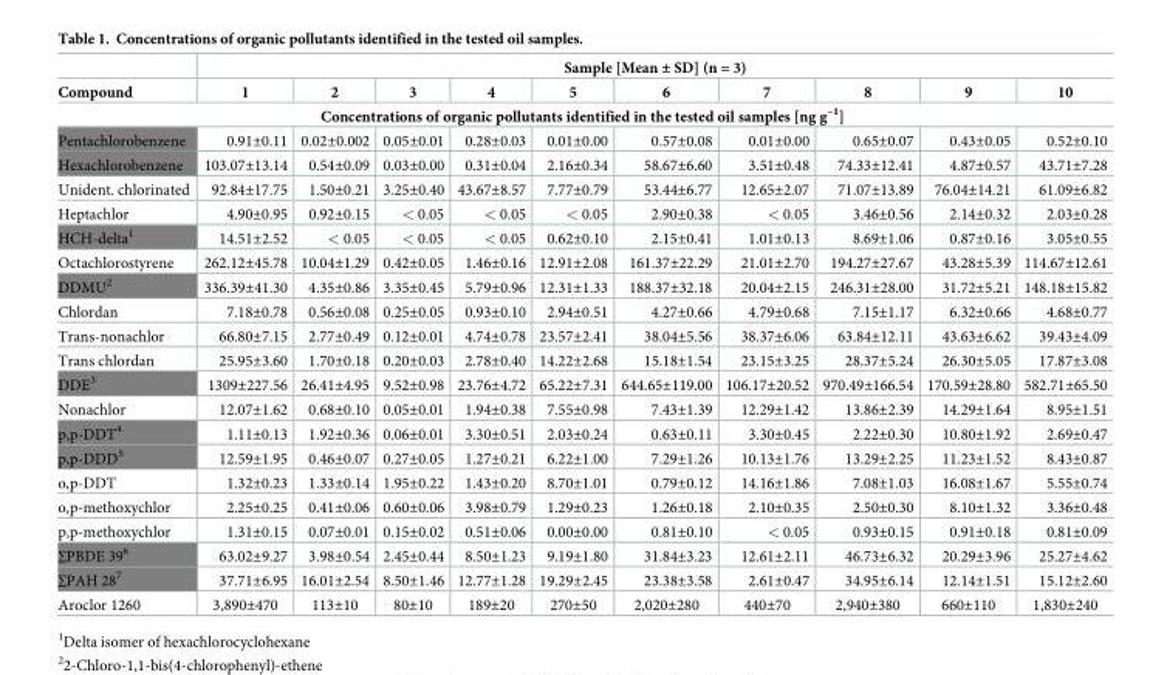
<table><thead><tr><td rowspan="2">Compound</td><td colspan="10">Sample [Mean ± SD] (n = 3)</td></tr><tr><td>1</td><td>2</td><td>3</td><td>4</td><td>5</td><td>6</td><td>7</td><td>8</td><td>9</td><td>10</td></tr><tr><td colspan="11">Concentrations of organic pollutants identified in the tested oil samples [ng g<sup>–1</sup>]</td></tr></thead><tbody><tr><td>Pentachlorobenzene</td><td>0.91±0.11</td><td>0.02±0.002</td><td>0.05±0.01</td><td>0.28±0.03</td><td>0.01±0.00</td><td>0.57±0.08</td><td>0.01±0.00</td><td>0.65±0.07</td><td>0.43±0.05</td><td>0.52±0.10</td></tr><tr><td>Hexachlorobenzene</td><td>103.07±13.14</td><td>0.54±0.09</td><td>0.03±0.00</td><td>0.31±0.04</td><td>2.16±0.34</td><td>58.67±6.60</td><td>3.51±0.48</td><td>74.33±12.41</td><td>4.87±0.57</td><td>43.71±7.28</td></tr><tr><td>Unident. chlorinated</td><td>92.84±17.75</td><td>1.50±0.21</td><td>3.25±0.40</td><td>43.67±8.57</td><td>7.77±0.79</td><td>53.44±6.77</td><td>12.65±2.07</td><td>71.07±13.89</td><td>76.04±14.21</td><td>61.09±6.82</td></tr><tr><td>Heptachlor</td><td>4.90±0.95</td><td>0.92±0.15</td><td>&lt; 0.05</td><td>&lt; 0.05</td><td>&lt; 0.05</td><td>2.90±0.38</td><td>&lt; 0.05</td><td>3.46±0.56</td><td>2.14±0.32</td><td>2.03±0.28</td></tr><tr><td>HCH-delta<sup>1</sup></td><td>14.51±2.52</td><td>&lt; 0.05</td><td>&lt; 0.05</td><td>&lt; 0.05</td><td>0.62±0.10</td><td>2.15±0.41</td><td>1.01±0.13</td><td>8.69±1.06</td><td>0.87±0.16</td><td>3.05±0.55</td></tr><tr><td>Octachlorostyrene</td><td>262.12±45.78</td><td>10.04±1.29</td><td>0.42±0.05</td><td>1.46±0.16</td><td>12.91±2.08</td><td>161.37±22.29</td><td>21.01±2.70</td><td>194.27±27.67</td><td>43.28±5.39</td><td>114.67±12.61</td></tr><tr><td>DDMU<sup>2</sup></td><td>336.39±41.30</td><td>4.35±0.86</td><td>3.35±0.45</td><td>5.79±0.96</td><td>12.31±1.33</td><td>188.37±32.18</td><td>20.04±2.15</td><td>246.31±28.00</td><td>31.72±5.21</td><td>148.18±15.82</td></tr><tr><td>Chlordan</td><td>7.18±0.78</td><td>0.56±0.08</td><td>0.25±0.05</td><td>0.93±0.10</td><td>2.94±0.51</td><td>4.27±0.66</td><td>4.79±0.68</td><td>7.15±1.17</td><td>6.32±0.66</td><td>4.68±0.77</td></tr><tr><td>Trans-nonachlor</td><td>66.80±7.15</td><td>2.77±0.49</td><td>0.12±0.01</td><td>4.74±0.78</td><td>23.57±2.41</td><td>38.04±5.56</td><td>38.37±6.06</td><td>63.84±12.11</td><td>43.63±6.62</td><td>39.43±4.09</td></tr><tr><td>Trans chlordan</td><td>25.95±3.60</td><td>1.70±0.18</td><td>0.20±0.03</td><td>2.78±0.40</td><td>14.22±2.68</td><td>15.18±1.54</td><td>23.15±3.25</td><td>28.37±5.24</td><td>26.30±5.05</td><td>17.87±3.08</td></tr><tr><td>DDE<sup>3</sup></td><td>1309±227.56</td><td>26.41±4.95</td><td>9.52±0.98</td><td>23.76±4.72</td><td>65.22±7.31</td><td>644.65±119.00</td><td>106.17±20.52</td><td>970.49±166.54</td><td>170.59±28.80</td><td>582.71±65.50</td></tr><tr><td>Nonachlor</td><td>12.07±1.62</td><td>0.68±0.10</td><td>0.05±0.01</td><td>1.94±0.38</td><td>7.55±0.98</td><td>7.43±1.39</td><td>12.29±1.42</td><td>13.86±2.39</td><td>14.29±1.64</td><td>8.95±1.51</td></tr><tr><td>p,p-DDT<sup>4</sup></td><td>1.11±0.13</td><td>1.92±0.36</td><td>0.06±0.01</td><td>3.30±0.51</td><td>2.03±0.24</td><td>0.63±0.11</td><td>3.30±0.45</td><td>2.22±0.30</td><td>10.80±1.92</td><td>2.69±0.47</td></tr><tr><td>p,p-DDD<sup>5</sup></td><td>12.59±1.95</td><td>0.46±0.07</td><td>0.27±0.05</td><td>1.27±0.21</td><td>6.22±1.00</td><td>7.29±1.26</td><td>10.13±1.76</td><td>13.29±2.25</td><td>11.23±1.52</td><td>8.43±0.87</td></tr><tr><td>o,p-DDT</td><td>1.32±0.23</td><td>1.33±0.14</td><td>1.95±0.22</td><td>1.43±0.20</td><td>8.70±1.01</td><td>0.79±0.12</td><td>14.16±1.86</td><td>7.08±1.03</td><td>16.08±1.67</td><td>5.55±0.74</td></tr><tr><td>o,p-methoxychlor</td><td>2.25±0.25</td><td>0.41±0.06</td><td>0.60±0.06</td><td>3.98±0.79</td><td>1.29±0.23</td><td>1.26±0.18</td><td>2.10±0.35</td><td>2.50±0.30</td><td>8.10±1.32</td><td>3.36±0.48</td></tr><tr><td>p,p-methoxychlor</td><td>1.31±0.15</td><td>0.07±0.01</td><td>0.15±0.02</td><td>0.51±0.06</td><td>0.00±0.00</td><td>0.81±0.10</td><td>&lt; 0.05</td><td>0.93±0.15</td><td>0.91±0.18</td><td>0.81±0.09</td></tr><tr><td>∑PBDE 39<sup>6</sup></td><td>63.02±9.27</td><td>3.98±0.54</td><td>2.45±0.44</td><td>8.50±1.23</td><td>9.19±1.80</td><td>31.84±3.23</td><td>12.61±2.11</td><td>46.73±6.32</td><td>20.29±3.96</td><td>25.27±4.62</td></tr><tr><td>∑PAH 28<sup>7</sup></td><td>37.71±6.95</td><td>16.01±2.54</td><td>8.50±1.46</td><td>12.77±1.28</td><td>19.29±2.45</td><td>23.38±3.58</td><td>2.61±0.47</td><td>34.95±6.14</td><td>12.14±1.51</td><td>15.12±2.60</td></tr><tr><td>Aroclor 1260</td><td>3,890±470</td><td>113±10</td><td>80±10</td><td>189±20</td><td>270±50</td><td>2,020±280</td><td>440±70</td><td>2,940±380</td><td>660±110</td><td>1,830±240</td></tr></tbody></table>